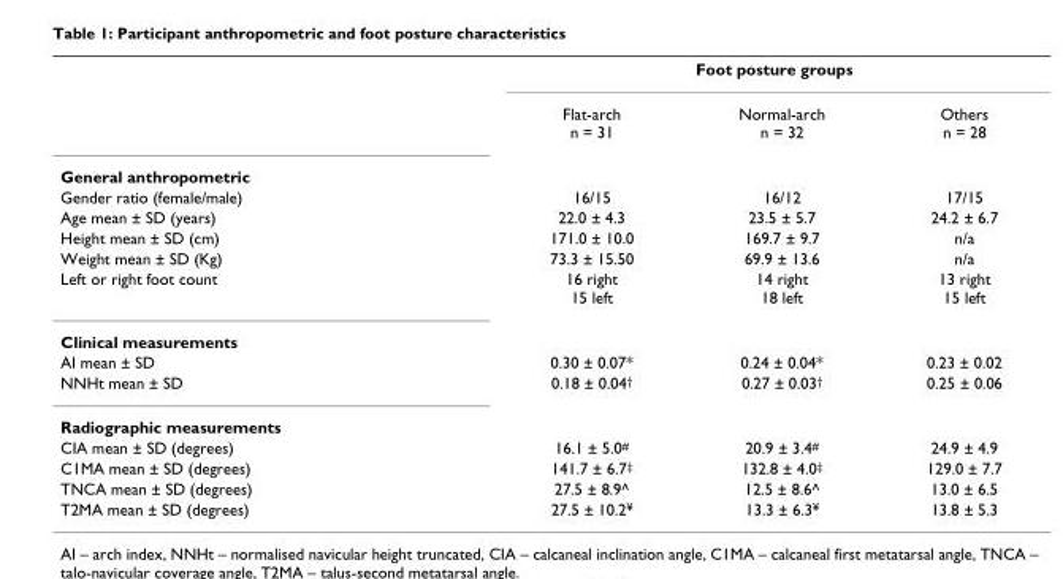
<table><thead><tr><td rowspan="2"></td><td colspan="3">Foot posture groups</td></tr><tr><td>Flat-arch n = 31</td><td>Normal-arch n = 32</td><td>Others n = 28</td></tr></thead><tbody><tr><td colspan="4">General anthropometric</td></tr><tr><td>Gender ratio (female/male)</td><td>16/15</td><td>16/12</td><td>17/15</td></tr><tr><td>Age mean ± SD (years)</td><td>22.0 ± 4.3</td><td>23.5 ± 5.7</td><td>24.2 ± 6.7</td></tr><tr><td>Height mean ± SD (cm)</td><td>171.0 ± 10.0</td><td>169.7 ± 9.7</td><td>n/a</td></tr><tr><td>Weight mean ± SD (Kg)</td><td>73.3 ± 15.50</td><td>69.9 ± 13.6</td><td>n/a</td></tr><tr><td>Left or right foot count</td><td>16 right 15 left</td><td>14 right 18 left</td><td>13 right 15 left</td></tr><tr><td colspan="4">Clinical measurements</td></tr><tr><td>AI mean ± SD</td><td>0.30 ± 0.07*</td><td>0.24 ± 0.04*</td><td>0.23 ± 0.02</td></tr><tr><td>NNHt mean ± SD</td><td>0.18 ± 0.04<sup>†</sup></td><td>0.27 ± 0.03<sup>†</sup></td><td>0.25 ± 0.06</td></tr><tr><td colspan="4">Radiographic measurements</td></tr><tr><td>CIA mean ± SD (degrees)</td><td>16.1 ± 5.0<sup>#</sup></td><td>20.9 ± 3.4<sup>#</sup></td><td>24.9 ± 4.9</td></tr><tr><td>C1MA mean ± SD (degrees)</td><td>141.7 ± 6.7<sup>‡</sup></td><td>132.8 ± 4.0<sup>‡</sup></td><td>129.0 ± 7.7</td></tr><tr><td>TNCA mean ± SD (degrees)</td><td>27.5 ± 8.9^</td><td>12.5 ± 8.6^</td><td>13.0 ± 6.5</td></tr><tr><td>T2MA mean ± SD (degrees)</td><td>27.5 ± 10.2<sup>¥</sup></td><td>13.3 ± 6.3<sup>¥</sup></td><td>13.8 ± 5.3</td></tr></tbody></table>